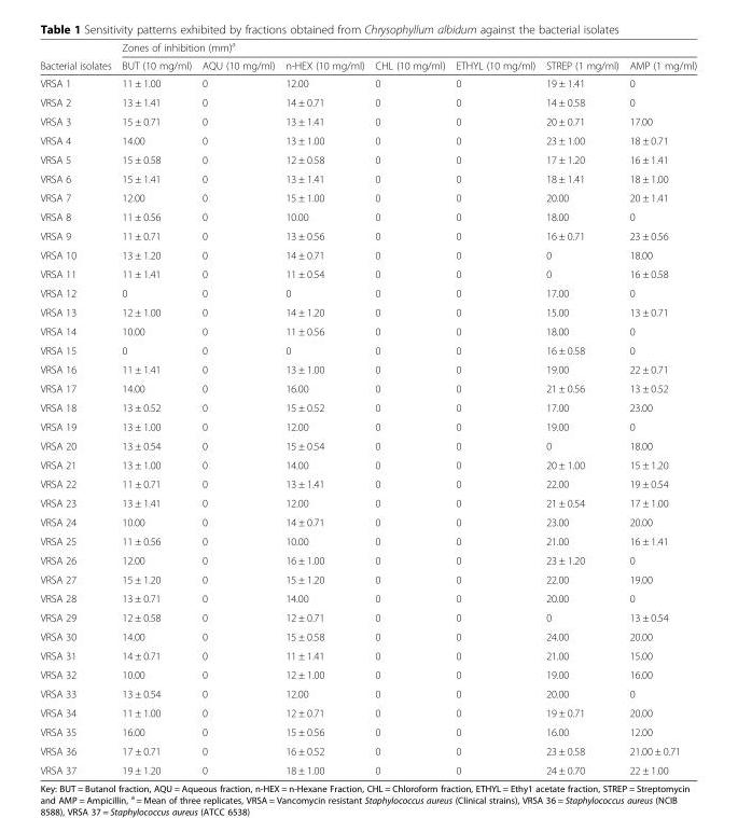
<table><thead><tr><td rowspan="2">Bacterial isolates</td><td colspan="7">Zones of inhibition (mm)<sup>a</sup></td></tr><tr><td>BUT (10 mg/ml)</td><td>AQU (10 mg/ml)</td><td>n-HEX (10 mg/ml)</td><td>CHL (10 mg/ml)</td><td>ETHYL (10 mg/ml)</td><td>STREP (1 mg/ml)</td><td>AMP (1 mg/ml)</td></tr></thead><tbody><tr><td>VRSA 1</td><td>11 ± 1.00</td><td>0</td><td>12.00</td><td>0</td><td>0</td><td>19 ± 1.41</td><td>0</td></tr><tr><td>VRSA 2</td><td>13 ± 1.41</td><td>0</td><td>14 ± 0.71</td><td>0</td><td>0</td><td>14 ± 0.58</td><td>0</td></tr><tr><td>VRSA 3</td><td>15 ± 0.71</td><td>0</td><td>13 ± 1.41</td><td>0</td><td>0</td><td>20 ± 0.71</td><td>17.00</td></tr><tr><td>VRSA 4</td><td>14.00</td><td>0</td><td>13 ± 1.00</td><td>0</td><td>0</td><td>23 ± 1.00</td><td>18 ± 0.71</td></tr><tr><td>VRSA 5</td><td>15 ± 0.58</td><td>0</td><td>12 ± 0.58</td><td>0</td><td>0</td><td>17 ± 1.20</td><td>16 ± 1.41</td></tr><tr><td>VRSA 6</td><td>15 ± 1.41</td><td>0</td><td>13 ± 1.41</td><td>0</td><td>0</td><td>18 ± 1.41</td><td>18 ± 1.00</td></tr><tr><td>VRSA 7</td><td>12.00</td><td>0</td><td>15 ± 1.00</td><td>0</td><td>0</td><td>20.00</td><td>20 ± 1.41</td></tr><tr><td>VRSA 8</td><td>11 ± 0.56</td><td>0</td><td>10.00</td><td>0</td><td>0</td><td>18.00</td><td>0</td></tr><tr><td>VRSA 9</td><td>11 ± 0.71</td><td>0</td><td>13 ± 0.56</td><td>0</td><td>0</td><td>16 ± 0.71</td><td>23 ± 0.56</td></tr><tr><td>VRSA 10</td><td>13 ± 1.20</td><td>0</td><td>14 ± 0.71</td><td>0</td><td>0</td><td>0</td><td>18.00</td></tr><tr><td>VRSA 11</td><td>11 ± 1.41</td><td>0</td><td>11 ± 0.54</td><td>0</td><td>0</td><td>0</td><td>16 ± 0.58</td></tr><tr><td>VRSA 12</td><td>0</td><td>0</td><td>0</td><td>0</td><td>0</td><td>17.00</td><td>0</td></tr><tr><td>VRSA 13</td><td>12 ± 1.00</td><td>0</td><td>14 ± 1.20</td><td>0</td><td>0</td><td>15.00</td><td>13 ± 0.71</td></tr><tr><td>VRSA 14</td><td>10.00</td><td>0</td><td>11 ± 0.56</td><td>0</td><td>0</td><td>18.00</td><td>0</td></tr><tr><td>VRSA 15</td><td>0</td><td>0</td><td>0</td><td>0</td><td>0</td><td>16 ± 0.58</td><td>0</td></tr><tr><td>VRSA 16</td><td>11 ± 1.41</td><td>0</td><td>13 ± 1.00</td><td>0</td><td>0</td><td>19.00</td><td>22 ± 0.71</td></tr><tr><td>VRSA 17</td><td>14.00</td><td>0</td><td>16.00</td><td>0</td><td>0</td><td>21 ± 0.56</td><td>13 ± 0.52</td></tr><tr><td>VRSA 18</td><td>13 ± 0.52</td><td>0</td><td>15 ± 0.52</td><td>0</td><td>0</td><td>17.00</td><td>23.00</td></tr><tr><td>VRSA 19</td><td>13 ± 1.00</td><td>0</td><td>12.00</td><td>0</td><td>0</td><td>19.00</td><td>0</td></tr><tr><td>VRSA 20</td><td>13 ± 0.54</td><td>0</td><td>15 ± 0.54</td><td>0</td><td>0</td><td>0</td><td>18.00</td></tr><tr><td>VRSA 21</td><td>13 ± 1.00</td><td>0</td><td>14.00</td><td>0</td><td>0</td><td>20 ± 1.00</td><td>15 ± 1.20</td></tr><tr><td>VRSA 22</td><td>11 ± 0.71</td><td>0</td><td>13 ± 1.41</td><td>0</td><td>0</td><td>22.00</td><td>19 ± 0.54</td></tr><tr><td>VRSA 23</td><td>13 ± 1.41</td><td>0</td><td>12.00</td><td>0</td><td>0</td><td>21 ± 0.54</td><td>17 ± 1.00</td></tr><tr><td>VRSA 24</td><td>10.00</td><td>0</td><td>14 ± 0.71</td><td>0</td><td>0</td><td>23.00</td><td>20.00</td></tr><tr><td>VRSA 25</td><td>11 ± 0.56</td><td>0</td><td>10.00</td><td>0</td><td>0</td><td>21.00</td><td>16 ± 1.41</td></tr><tr><td>VRSA 26</td><td>12.00</td><td>0</td><td>16 ± 1.00</td><td>0</td><td>0</td><td>23 ± 1.20</td><td>0</td></tr><tr><td>VRSA 27</td><td>15 ± 1.20</td><td>0</td><td>15 ± 1.20</td><td>0</td><td>0</td><td>22.00</td><td>19.00</td></tr><tr><td>VRSA 28</td><td>13 ± 0.71</td><td>0</td><td>14.00</td><td>0</td><td>0</td><td>20.00</td><td>0</td></tr><tr><td>VRSA 29</td><td>12 ± 0.58</td><td>0</td><td>12 ± 0.71</td><td>0</td><td>0</td><td>0</td><td>13 ± 0.54</td></tr><tr><td>VRSA 30</td><td>14.00</td><td>0</td><td>15 ± 0.58</td><td>0</td><td>0</td><td>24.00</td><td>20.00</td></tr><tr><td>VRSA 31</td><td>14 ± 0.71</td><td>0</td><td>11 ± 1.41</td><td>0</td><td>0</td><td>21.00</td><td>15.00</td></tr><tr><td>VRSA 32</td><td>10.00</td><td>0</td><td>12 ± 1.00</td><td>0</td><td>0</td><td>19.00</td><td>16.00</td></tr><tr><td>VRSA 33</td><td>13 ± 0.54</td><td>0</td><td>12.00</td><td>0</td><td>0</td><td>20.00</td><td>0</td></tr><tr><td>VRSA 34</td><td>11 ± 1.00</td><td>0</td><td>12 ± 0.71</td><td>0</td><td>0</td><td>19 ± 0.71</td><td>20.00</td></tr><tr><td>VRSA 35</td><td>16.00</td><td>0</td><td>15 ± 0.56</td><td>0</td><td>0</td><td>16.00</td><td>12.00</td></tr><tr><td>VRSA 36</td><td>17 ± 0.71</td><td>0</td><td>16 ± 0.52</td><td>0</td><td>0</td><td>23 ± 0.58</td><td>21.00 ± 0.71</td></tr><tr><td>VRSA 37</td><td>19 ± 1.20</td><td>0</td><td>18 ± 1.00</td><td>0</td><td>0</td><td>24 ± 0.70</td><td>22 ± 1.00</td></tr></tbody></table>